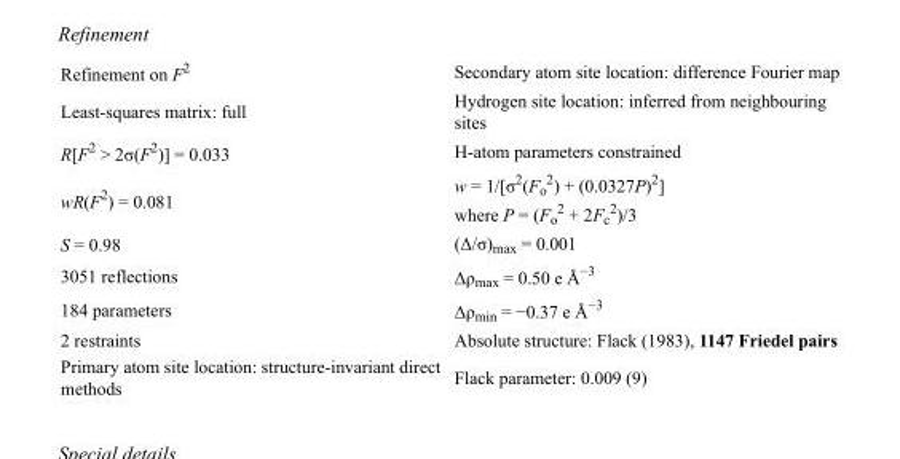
<table><tbody><tr><td>Refinement on F<sup>2</sup></td><td>Secondary atom site location: difference Fourier map</td></tr><tr><td>Least-squares matrix: full</td><td>Hydrogen site location: inferred from neighbouring sites</td></tr><tr><td>R[F<sup>2</sup> &gt; 2σ(F<sup>2</sup>)] = 0.033</td><td>H-atom parameters constrained</td></tr><tr><td>wR(F<sup>2</sup>) = 0.081</td><td>w = 1/[σ<sup>2</sup>(F<sub>o</sub> <sup>2</sup>) + (0.0327P)<sup>2</sup>] where P = (F<sub>o</sub> <sup>2</sup> + 2F<sub>c</sub> <sup>2</sup>)/3</td></tr><tr><td>S = 0.98</td><td>(Δ/σ)<sub>max</sub> = 0.001</td></tr><tr><td>3051 reflections</td><td>Δρ<sub>max</sub> = 0.50 e Å<sup>−3</sup></td></tr><tr><td>184 parameters</td><td>Δρ<sub>min</sub> = −0.37 e Å<sup>−3</sup></td></tr><tr><td>2 restraints</td><td>Absolute structure: Flack (1983), 1147 Friedel pairs</td></tr><tr><td>Primary atom site location: structure-invariant direct methods</td><td>Flack parameter: 0.009 (9)</td></tr></tbody></table>